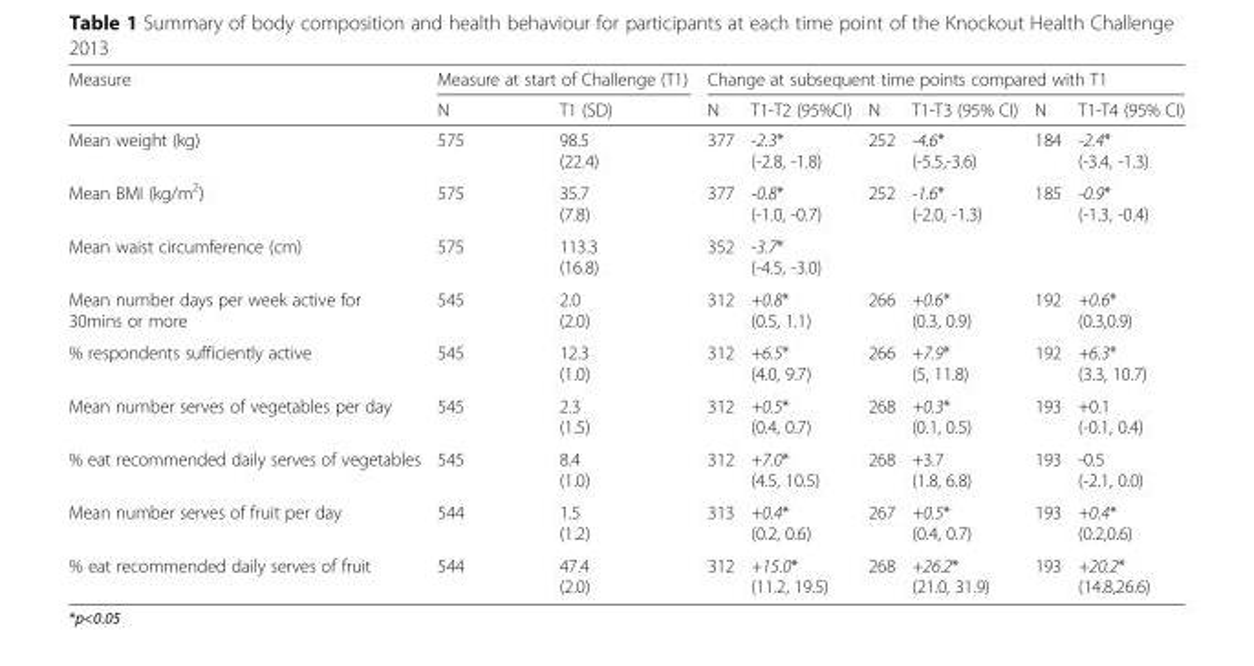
<table><thead><tr><td rowspan="2">Measure</td><td colspan="2">Measure at start of Challenge (T1)</td><td colspan="6">Change at subsequent time points compared with T1</td></tr><tr><td>N</td><td>T1 (SD)</td><td>N</td><td>T1-T2 (95%CI)</td><td>N</td><td>T1-T3 (95% CI)</td><td>N</td><td>T1-T4 (95% CI)</td></tr></thead><tbody><tr><td>Mean weight (kg)</td><td>575</td><td>98.5 (22.4)</td><td>377</td><td>-2.3* (-2.8, -1.8)</td><td>252</td><td>-4.6* (-5.5,-3.6)</td><td>184</td><td>-2.4* (-3.4, -1.3)</td></tr><tr><td>Mean BMI (kg/m<sup>2</sup>)</td><td>575</td><td>35.7 (7.8)</td><td>377</td><td>-0.8* (-1.0, -0.7)</td><td>252</td><td>-1.6* (-2.0, -1.3)</td><td>185</td><td>-0.9* (-1.3, -0.4)</td></tr><tr><td>Mean waist circumference (cm)</td><td>575</td><td>113.3 (16.8)</td><td>352</td><td>-3.7* (-4.5, -3.0)</td><td></td><td></td><td></td><td></td></tr><tr><td>Mean number days per week active for 30mins or more</td><td>545</td><td>2.0 (2.0)</td><td>312</td><td>+0.8* (0.5, 1.1)</td><td>266</td><td>+0.6* (0.3, 0.9)</td><td>192</td><td>+0.6* (0.3,0.9)</td></tr><tr><td>% respondents sufficiently active</td><td>545</td><td>12.3 (1.0)</td><td>312</td><td>+6.5* (4.0, 9.7)</td><td>266</td><td>+7.9* (5, 11.8)</td><td>192</td><td>+6.3* (3.3, 10.7)</td></tr><tr><td>Mean number serves of vegetables per day</td><td>545</td><td>2.3 (1.5)</td><td>312</td><td>+0.5* (0.4, 0.7)</td><td>268</td><td>+0.3* (0.1, 0.5)</td><td>193</td><td>+0.1 (-0.1, 0.4)</td></tr><tr><td>% eat recommended daily serves of vegetables</td><td>545</td><td>8.4 (1.0)</td><td>312</td><td>+7.0* (4.5, 10.5)</td><td>268</td><td>+3.7 (1.8, 6.8)</td><td>193</td><td>-0.5 (-2.1, 0.0)</td></tr><tr><td>Mean number serves of fruit per day</td><td>544</td><td>1.5 (1.2)</td><td>313</td><td>+0.4* (0.2, 0.6)</td><td>267</td><td>+0.5* (0.4, 0.7)</td><td>193</td><td>+0.4* (0.2,0.6)</td></tr><tr><td>% eat recommended daily serves of fruit</td><td>544</td><td>47.4 (2.0)</td><td>312</td><td>+15.0* (11.2, 19.5)</td><td>268</td><td>+26.2* (21.0, 31.9)</td><td>193</td><td>+20.2* (14.8,26.6)</td></tr></tbody></table>